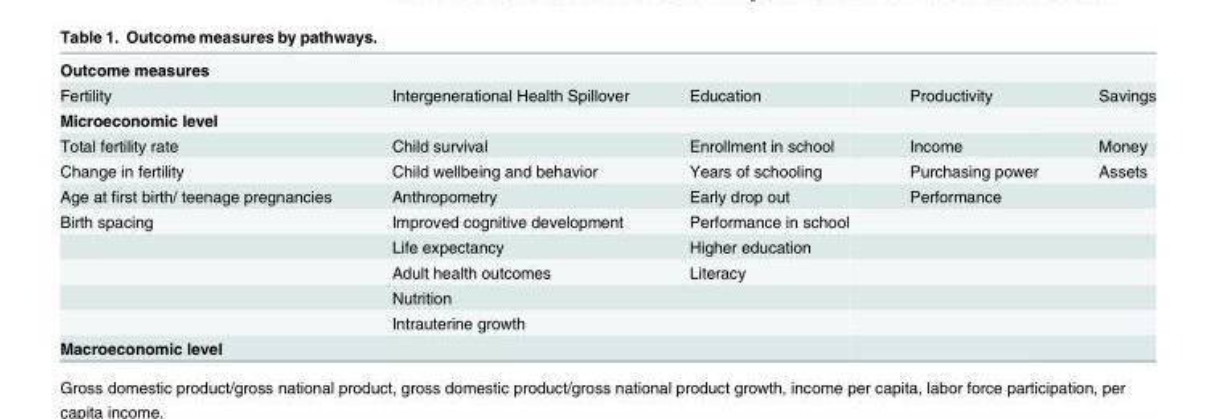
<table><tbody><tr><td colspan="5">Outcome measures</td></tr><tr><td>Fertility</td><td>Intergenerational Health Spillover</td><td>Education</td><td>Productivity</td><td>Savings</td></tr><tr><td colspan="5">Microeconomic level</td></tr><tr><td>Total fertility rate</td><td>Child survival</td><td>Enrollment in school</td><td>Income</td><td>Money</td></tr><tr><td>Change in fertility</td><td>Child wellbeing and behavior</td><td>Years of schooling</td><td>Purchasing power</td><td>Assets</td></tr><tr><td>Age at first birth/ teenage pregnancies</td><td>Anthropometry</td><td>Early drop out</td><td>Performance</td><td></td></tr><tr><td rowspan="5">Birth spacing</td><td>Improved cognitive development</td><td>Performance in school</td><td></td><td></td></tr><tr><td>Life expectancy</td><td>Higher education</td><td></td><td></td></tr><tr><td>Adult health outcomes</td><td>Literacy</td><td></td><td></td></tr><tr><td>Nutrition</td><td></td><td></td><td></td></tr><tr><td>Intrauterine growth</td><td></td><td></td><td></td></tr><tr><td>Macroeconomic level</td><td></td><td></td><td></td><td></td></tr></tbody></table>